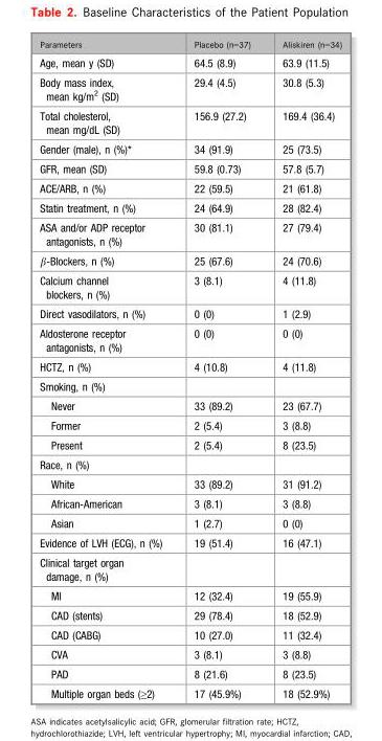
<table><thead><tr><td>Parameters</td><td>Placebo (n=37)</td><td>Aliskiren (n=34)</td></tr></thead><tbody><tr><td>Age, mean y (SD)</td><td>64.5 (8.9)</td><td>63.9 (11.5)</td></tr><tr><td>Body mass index, mean kg/m<sup>2</sup> (SD)</td><td>29.4 (4.5)</td><td>30.8 (5.3)</td></tr><tr><td>Total cholesterol, mean mg/dL (SD)</td><td>156.9 (27.2)</td><td>169.4 (36.4)</td></tr><tr><td>Gender (male), n (%)*</td><td>34 (91.9)</td><td>25 (73.5)</td></tr><tr><td>GFR, mean (SD)</td><td>59.8 (0.73)</td><td>57.8 (5.7)</td></tr><tr><td>ACE/ARB, n (%)</td><td>22 (59.5)</td><td>21 (61.8)</td></tr><tr><td>Statin treatment, n (%)</td><td>24 (64.9)</td><td>28 (82.4)</td></tr><tr><td>ASA and/or ADP receptor antagonists, n (%)</td><td>30 (81.1)</td><td>27 (79.4)</td></tr><tr><td>β-Blockers, n (%)</td><td>25 (67.6)</td><td>24 (70.6)</td></tr><tr><td>Calcium channel blockers, n (%)</td><td>3 (8.1)</td><td>4 (11.8)</td></tr><tr><td>Direct vasodilators, n (%)</td><td>0 (0)</td><td>1 (2.9)</td></tr><tr><td>Aldosterone receptor antagonists, n (%)</td><td>0 (0)</td><td>0 (0)</td></tr><tr><td>HCTZ, n (%)</td><td>4 (10.8)</td><td>4 (11.8)</td></tr><tr><td colspan="3">Smoking, n (%)</td></tr><tr><td>Never</td><td>33 (89.2)</td><td>23 (67.7)</td></tr><tr><td>Former</td><td>2 (5.4)</td><td>3 (8.8)</td></tr><tr><td>Present</td><td>2 (5.4)</td><td>8 (23.5)</td></tr><tr><td colspan="3">Race, n (%)</td></tr><tr><td>White</td><td>33 (89.2)</td><td>31 (91.2)</td></tr><tr><td>African-American</td><td>3 (8.1)</td><td>3 (8.8)</td></tr><tr><td>Asian</td><td>1 (2.7)</td><td>0 (0)</td></tr><tr><td>Evidence of LVH (ECG), n (%)</td><td>19 (51.4)</td><td>16 (47.1)</td></tr><tr><td colspan="3">Clinical target organ damage, n (%)</td></tr><tr><td>MI</td><td>12 (32.4)</td><td>19 (55.9)</td></tr><tr><td>CAD (stents)</td><td>29 (78.4)</td><td>18 (52.9)</td></tr><tr><td>CAD (CABG)</td><td>10 (27.0)</td><td>11 (32.4)</td></tr><tr><td>CVA</td><td>3 (8.1)</td><td>3 (8.8)</td></tr><tr><td>PAD</td><td>8 (21.6)</td><td>8 (23.5)</td></tr><tr><td>Multiple organ beds (≥2)</td><td>17 (45.9%)</td><td>18 (52.9%)</td></tr></tbody></table>